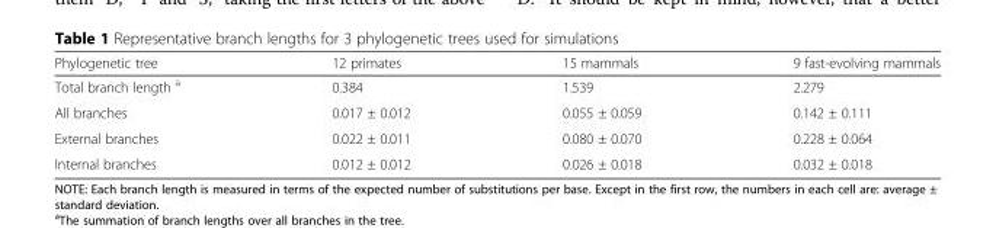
<table><thead><tr><td>Phylogenetic tree</td><td>12 primates</td><td>15 mammals</td><td>9 fast-evolving mammals</td></tr></thead><tbody><tr><td>Total branch length <sup>a</sup></td><td>0.384</td><td>1.539</td><td>2.279</td></tr><tr><td>All branches</td><td>0.017 ± 0.012</td><td>0.055 ± 0.059</td><td>0.142 ± 0.111</td></tr><tr><td>External branches</td><td>0.022 ± 0.011</td><td>0.080 ± 0.070</td><td>0.228 ± 0.064</td></tr><tr><td>Internal branches</td><td>0.012 ± 0.012</td><td>0.026 ± 0.018</td><td>0.032 ± 0.018</td></tr></tbody></table>